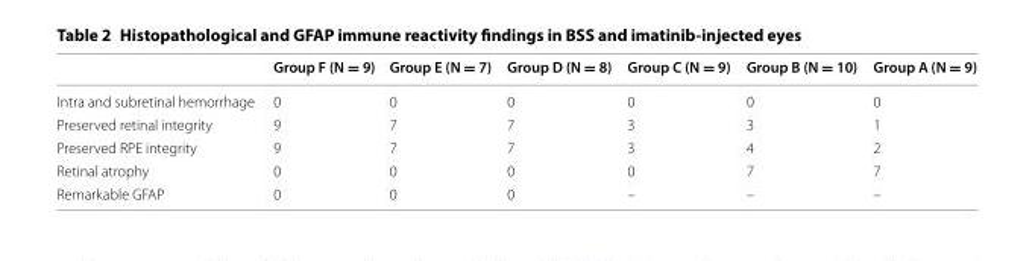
<table><thead><tr><td></td><td>Group F (N = 9)</td><td>Group E (N = 7)</td><td>Group D (N = 8)</td><td>Group C (N = 9)</td><td>Group B (N = 10)</td><td>Group A (N = 9)</td></tr></thead><tbody><tr><td>Intra and subretinal hemorrhage</td><td>0</td><td>0</td><td>0</td><td>0</td><td>0</td><td>0</td></tr><tr><td>Preserved retinal integrity</td><td>9</td><td>7</td><td>7</td><td>3</td><td>3</td><td>1</td></tr><tr><td>Preserved RPE integrity</td><td>9</td><td>7</td><td>7</td><td>3</td><td>4</td><td>2</td></tr><tr><td>Retinal atrophy</td><td>0</td><td>0</td><td>0</td><td>0</td><td>7</td><td>7</td></tr><tr><td>Remarkable GFAP</td><td>0</td><td>0</td><td>0</td><td>–</td><td>–</td><td>–</td></tr></tbody></table>